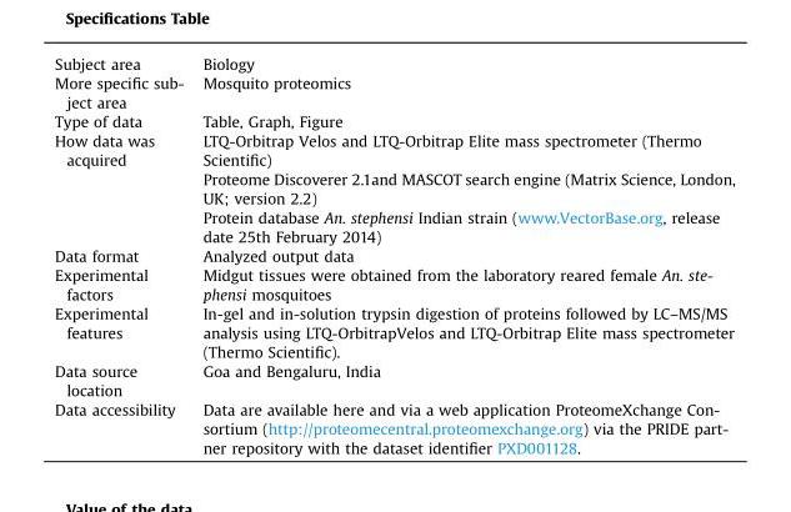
<table><tbody><tr><td>Subject area</td><td>Biology</td></tr><tr><td>More specific sub- ject area</td><td>Mosquito proteomics</td></tr><tr><td>Type of data</td><td>Table, Graph, Figure</td></tr><tr><td rowspan="3">How data was acquired</td><td>LTQ-Orbitrap Velos and LTQ-Orbitrap Elite mass spectrometer (Thermo Scientific)</td></tr><tr><td>Proteome Discoverer 2.1and MASCOT search engine (Matrix Science, London, UK; version 2.2)</td></tr><tr><td>Protein database An. stephensi Indian strain (www.VectorBase.org, release date 25th February 2014)</td></tr><tr><td>Data format</td><td>Analyzed output data</td></tr><tr><td>Experimental factors</td><td>Midgut tissues were obtained from the laboratory reared female An. ste- phensi mosquitoes</td></tr><tr><td>Experimental features</td><td>In-gel and in-solution trypsin digestion of proteins followed by LC–MS/MS analysis using LTQ-OrbitrapVelos and LTQ-Orbitrap Elite mass spectrometer (Thermo Scientific).</td></tr><tr><td>Data source location</td><td>Goa and Bengaluru, India</td></tr><tr><td>Data accessibility</td><td>Data are available here and via a web application ProteomeXchange Con- sortium (http://proteomecentral.proteomexchange.org) via the PRIDE part- ner repository with the dataset identifier PXD001128.</td></tr></tbody></table>